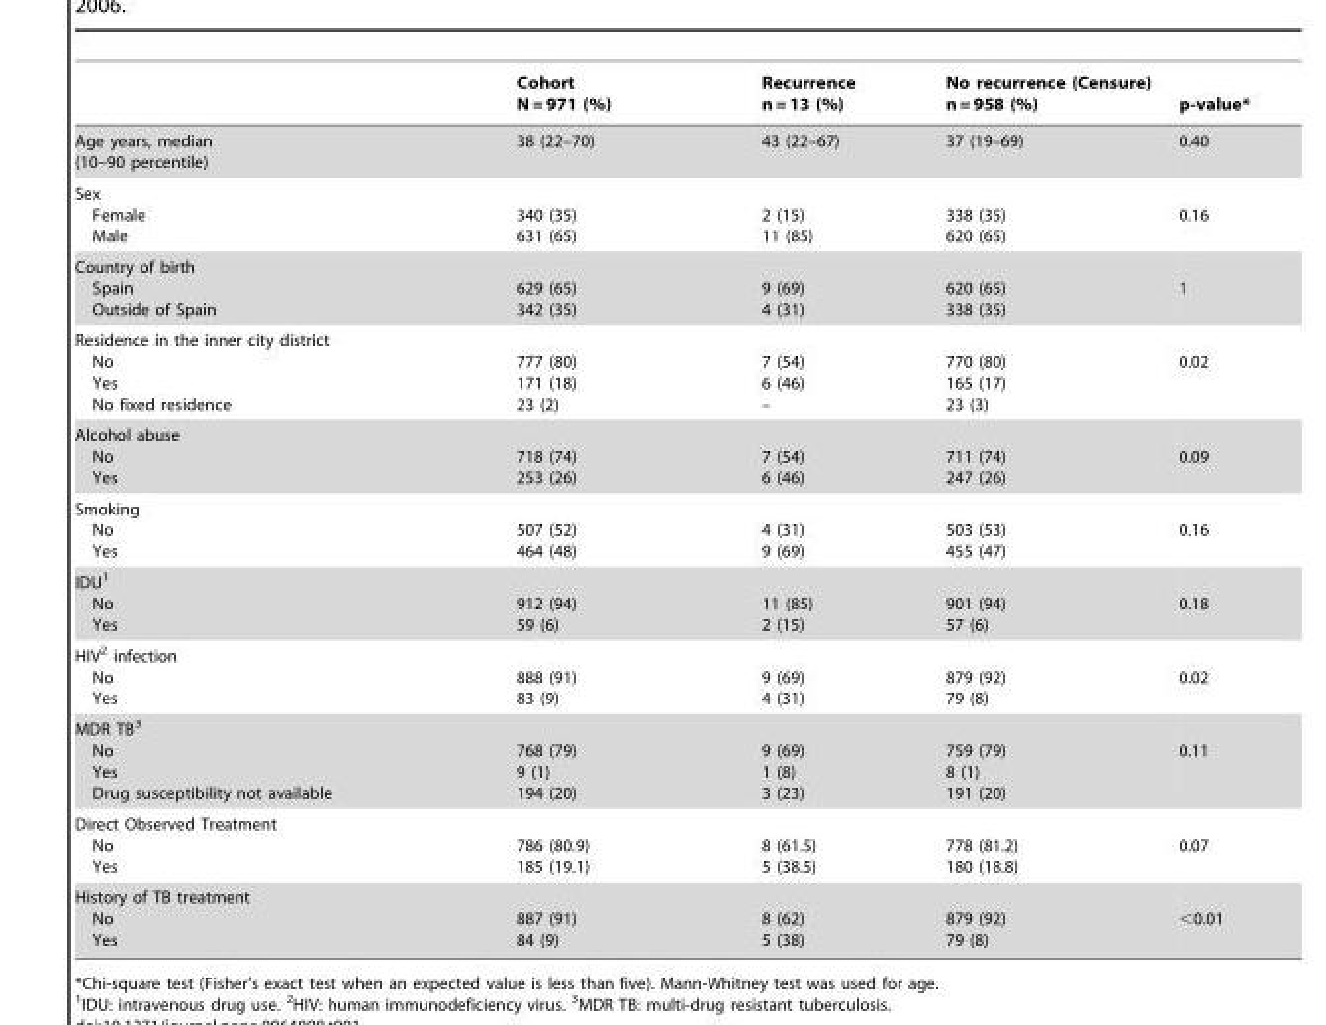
<table><thead><tr><td></td><td>Cohort N = 971 (%)</td><td>Recurrence n = 13 (%)</td><td>No recurrence (Censure) n = 958 (%)</td><td>p-value*</td></tr></thead><tbody><tr><td>Age years, median (10–90 percentile)</td><td>38 (22–70)</td><td>43 (22–67)</td><td>37 (19–69)</td><td>0.40</td></tr><tr><td>Sex Female Male</td><td>340 (35) 631 (65)</td><td>2 (15) 11 (85)</td><td>338 (35) 620 (65)</td><td>0.16</td></tr><tr><td>Country of birth Spain Outside of Spain</td><td>629 (65) 342 (35)</td><td>9 (69) 4 (31)</td><td>620 (65) 338 (35)</td><td>1</td></tr><tr><td>Residence in the inner city district No Yes No fixed residence</td><td>777 (80) 171 (18) 23 (2)</td><td>7 (54) 6 (46) –</td><td>770 (80) 165 (17) 23 (3)</td><td>0.02</td></tr><tr><td>Alcohol abuse No Yes</td><td>718 (74) 253 (26)</td><td>7 (54) 6 (46)</td><td>711 (74) 247 (26)</td><td>0.09</td></tr><tr><td>Smoking No Yes</td><td>507 (52) 464 (48)</td><td>4 (31) 9 (69)</td><td>503 (53) 455 (47)</td><td>0.16</td></tr><tr><td>IDU<sup>1</sup> No Yes</td><td>912 (94) 59 (6)</td><td>11 (85) 2 (15)</td><td>901 (94) 57 (6)</td><td>0.18</td></tr><tr><td>HIV<sup>2</sup> infection No Yes</td><td>888 (91) 83 (9)</td><td>9 (69) 4 (31)</td><td>879 (92) 79 (8)</td><td>0.02</td></tr><tr><td>MDR TB<sup>3</sup> No Yes Drug susceptibility not available</td><td>768 (79) 9 (1) 194 (20)</td><td>9 (69) 1 (8) 3 (23)</td><td>759 (79) 8 (1) 191 (20)</td><td>0.11</td></tr><tr><td>Direct Observed Treatment No Yes</td><td>786 (80.9) 185 (19.1)</td><td>8 (61.5) 5 (38.5)</td><td>778 (81.2) 180 (18.8)</td><td>0.07</td></tr><tr><td>History of TB treatment No Yes</td><td>887 (91) 84 (9)</td><td>8 (62) 5 (38)</td><td>879 (92) 79 (8)</td><td>&lt;0.01</td></tr></tbody></table>